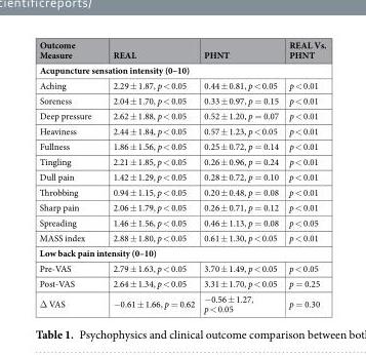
<table><thead><tr><td>Outcome Measure</td><td>REAL</td><td>PHNT</td><td>REAL Vs. PHNT</td></tr></thead><tbody><tr><td colspan="4">Acupuncture sensation intensity (0–10)</td></tr><tr><td>Aching</td><td>2.29 ± 1.87, p &lt; 0.05</td><td>0.44 ± 0.81, p &lt; 0.05</td><td>p &lt; 0.01</td></tr><tr><td>Soreness</td><td>2.04 ± 1.70, p &lt; 0.05</td><td>0.33 ± 0.97, p = 0.15</td><td>p &lt; 0.01</td></tr><tr><td>Deep pressure</td><td>2.62 ± 1.88, p &lt; 0.05</td><td>0.52 ± 1.20, p = 0.07</td><td>p &lt; 0.01</td></tr><tr><td>Heaviness</td><td>2.44 ± 1.84, p &lt; 0.05</td><td>0.57 ± 1.23, p &lt; 0.05</td><td>p &lt; 0.01</td></tr><tr><td>Fullness</td><td>1.86 ± 1.56, p &lt; 0.05</td><td>0.25 ± 0.72, p = 0.14</td><td>p &lt; 0.01</td></tr><tr><td>Tingling</td><td>2.21 ± 1.85, p &lt; 0.05</td><td>0.26 ± 0.96, p = 0.24</td><td>p &lt; 0.01</td></tr><tr><td>Dull pain</td><td>1.42 ± 1.29, p &lt; 0.05</td><td>0.28 ± 0.72, p = 0.10</td><td>p &lt; 0.01</td></tr><tr><td>Throbbing</td><td>0.94 ± 1.15, p &lt; 0.05</td><td>0.20 ± 0.48, p = 0.08</td><td>p &lt; 0.01</td></tr><tr><td>Sharp pain</td><td>2.06 ± 1.79, p &lt; 0.05</td><td>0.26 ± 0.71, p = 0.12</td><td>p &lt; 0.01</td></tr><tr><td>Spreading</td><td>1.46 ± 1.56, p &lt; 0.05</td><td>0.46 ± 1.13, p = 0.08</td><td>p &lt; 0.05</td></tr><tr><td>MASS index</td><td>2.88 ± 1.80, p &lt; 0.05</td><td>0.61 ± 1.30, p &lt; 0.05</td><td>p &lt; 0.01</td></tr><tr><td colspan="4">Low back pain intensity (0–10)</td></tr><tr><td>Pre-VAS</td><td>2.79 ± 1.63, p &lt; 0.05</td><td>3.70 ± 1.49, p &lt; 0.05</td><td>p &lt; 0.05</td></tr><tr><td>Post-VAS</td><td>2.64 ± 1.34, p &lt; 0.05</td><td>3.31 ± 1.70, p &lt; 0.05</td><td>p = 0.25</td></tr><tr><td>Δ VAS</td><td>−0.61 ± 1.66, p = 0.62</td><td>−0.56 ± 1.27, p &lt; 0.05</td><td>p = 0.30</td></tr></tbody></table>